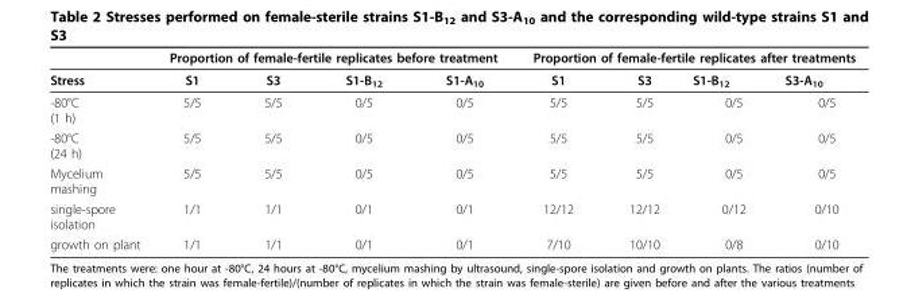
<table><thead><tr><td rowspan="2">Stress</td><td colspan="4">Proportion of female-fertile replicates before treatment</td><td colspan="4">Proportion of female-fertile replicates after treatments</td></tr><tr><td>S1</td><td>S3</td><td>S1-B<sub>12</sub></td><td>S1-A<sub>10</sub></td><td>S1</td><td>S3</td><td>S1-B<sub>12</sub></td><td>S3-A<sub>10</sub></td></tr></thead><tbody><tr><td>-80°C (1 h)</td><td>5/5</td><td>5/5</td><td>0/5</td><td>0/5</td><td>5/5</td><td>5/5</td><td>0/5</td><td>0/5</td></tr><tr><td>-80°C (24 h)</td><td>5/5</td><td>5/5</td><td>0/5</td><td>0/5</td><td>5/5</td><td>5/5</td><td>0/5</td><td>0/5</td></tr><tr><td>Mycelium mashing</td><td>5/5</td><td>5/5</td><td>0/5</td><td>0/5</td><td>5/5</td><td>5/5</td><td>0/5</td><td>0/5</td></tr><tr><td>single-spore isolation</td><td>1/1</td><td>1/1</td><td>0/1</td><td>0/1</td><td>12/12</td><td>12/12</td><td>0/12</td><td>0/10</td></tr><tr><td>growth on plant</td><td>1/1</td><td>1/1</td><td>0/1</td><td>0/1</td><td>7/10</td><td>10/10</td><td>0/8</td><td>0/10</td></tr></tbody></table>